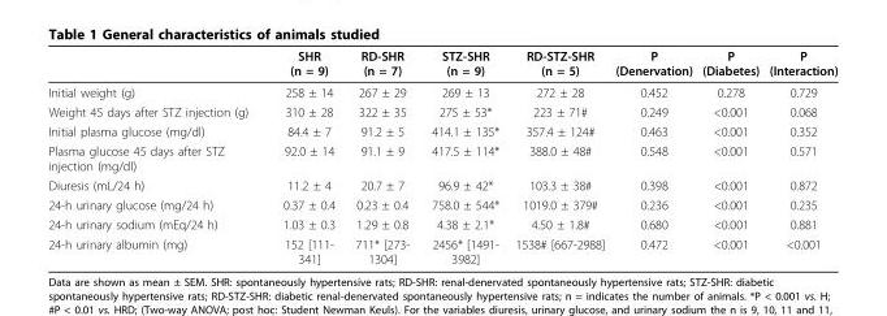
<table><thead><tr><td></td><td>SHR (n = 9)</td><td>RD-SHR (n = 7)</td><td>STZ-SHR (n = 9)</td><td>RD-STZ-SHR (n = 5)</td><td>P (Denervation)</td><td>P (Diabetes)</td><td>P (Interaction)</td></tr></thead><tbody><tr><td>Initial weight (g)</td><td>258 ± 14</td><td>267 ± 29</td><td>269 ± 13</td><td>272 ± 28</td><td>0.452</td><td>0.278</td><td>0.729</td></tr><tr><td>Weight 45 days after STZ injection (g)</td><td>310 ± 28</td><td>322 ± 35</td><td>275 ± 53*</td><td>223 ± 71#</td><td>0.249</td><td>&lt;0.001</td><td>0.068</td></tr><tr><td>Initial plasma glucose (mg/dl)</td><td>84.4 ± 7</td><td>91.2 ± 5</td><td>414.1 ± 135*</td><td>357.4 ± 124#</td><td>0.463</td><td>&lt;0.001</td><td>0.352</td></tr><tr><td>Plasma glucose 45 days after STZ injection (mg/dl)</td><td>92.0 ± 14</td><td>91.1 ± 9</td><td>417.5 ± 114*</td><td>388.0 ± 48#</td><td>0.548</td><td>&lt;0.001</td><td>0.571</td></tr><tr><td>Diuresis (mL/24 h)</td><td>11.2 ± 4</td><td>20.7 ± 7</td><td>96.9 ± 42*</td><td>103.3 ± 38#</td><td>0.398</td><td>&lt;0.001</td><td>0.872</td></tr><tr><td>24-h urinary glucose (mg/24 h)</td><td>0.37 ± 0.4</td><td>0.23 ± 0.4</td><td>758.0 ± 544*</td><td>1019.0 ± 379#</td><td>0.236</td><td>&lt;0.001</td><td>0.235</td></tr><tr><td>24-h urinary sodium (mEq/24 h)</td><td>1.03 ± 0.3</td><td>1.29 ± 0.8</td><td>4.38 ± 2.1*</td><td>4.50 ± 1.8#</td><td>0.680</td><td>&lt;0.001</td><td>0.881</td></tr><tr><td>24-h urinary albumin (mg)</td><td>152 [111- 341]</td><td>711* [273- 1304]</td><td>2456* [1491- 3982]</td><td>1538# [667-2988]</td><td>0.472</td><td>&lt;0.001</td><td>&lt;0.001</td></tr></tbody></table>